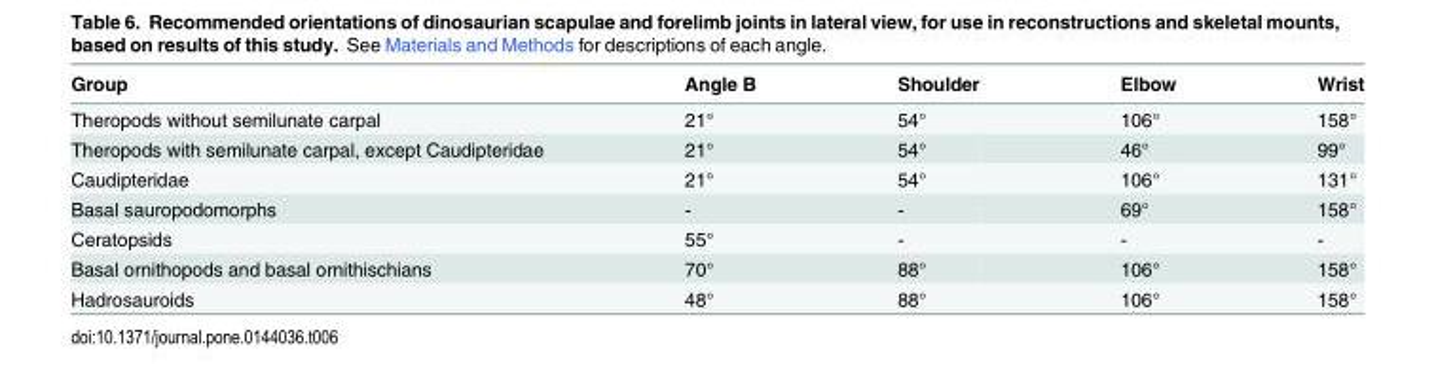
<table><thead><tr><td>Group</td><td>Angle B</td><td>Shoulder</td><td>Elbow</td><td>Wrist</td></tr></thead><tbody><tr><td>Theropods without semilunate carpal</td><td>21°</td><td>54°</td><td>106°</td><td>158°</td></tr><tr><td>Theropods with semilunate carpal, except Caudipteridae</td><td>21°</td><td>54°</td><td>46°</td><td>99°</td></tr><tr><td>Caudipteridae</td><td>21°</td><td>54°</td><td>106°</td><td>131°</td></tr><tr><td>Basal sauropodomorphs</td><td>-</td><td>-</td><td>69°</td><td>158°</td></tr><tr><td>Ceratopsids</td><td>55°</td><td>-</td><td>-</td><td>-</td></tr><tr><td>Basal ornithopods and basal ornithischians</td><td>70°</td><td>88°</td><td>106°</td><td>158°</td></tr><tr><td>Hadrosauroids</td><td>48°</td><td>88°</td><td>106°</td><td>158°</td></tr></tbody></table>